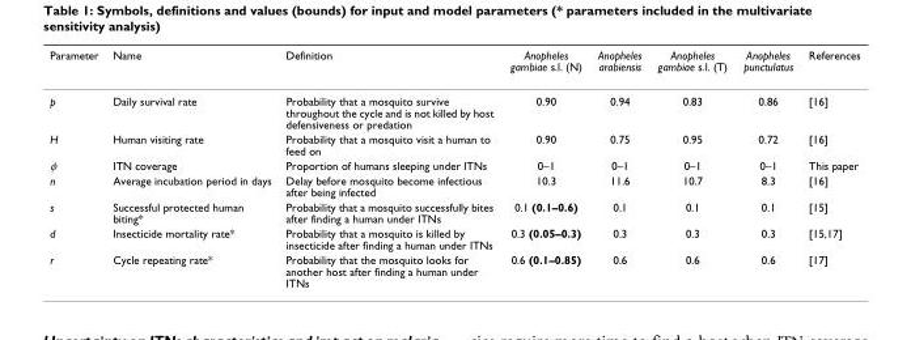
<table><thead><tr><td>Parameter</td><td>Name</td><td>Definition</td><td>Anopheles gambiae s.l. (N)</td><td>Anopheles arabiensis</td><td>Anopheles gambiae s.l. (T)</td><td>Anopheles punctulatus</td><td>References</td></tr></thead><tbody><tr><td>p</td><td>Daily survival rate</td><td>Probability that a mosquito survive throughout the cycle and is not killed by host defensiveness or predation</td><td>0.90</td><td>0.94</td><td>0.83</td><td>0.86</td><td>[16]</td></tr><tr><td>H</td><td>Human visiting rate</td><td>Probability that a mosquito visit a human to feed on</td><td>0.90</td><td>0.75</td><td>0.95</td><td>0.72</td><td>[16]</td></tr><tr><td>φ</td><td>ITN coverage</td><td>Proportion of humans sleeping under ITNs</td><td>0–1</td><td>0–1</td><td>0–1</td><td>0–1</td><td>This paper</td></tr><tr><td>n</td><td>Average incubation period in days</td><td>Delay before mosquito become infectious after being infected</td><td>10.3</td><td>11.6</td><td>10.7</td><td>8.3</td><td>[16]</td></tr><tr><td>s</td><td>Successful protected human biting*</td><td>Probability that a mosquito successfully bites after finding a human under ITNs</td><td>0.1 (0.1–0.6)</td><td>0.1</td><td>0.1</td><td>0.1</td><td>[15]</td></tr><tr><td>d</td><td>Insecticide mortality rate*</td><td>Probability that a mosquito is killed by insecticide after finding a human under ITNs</td><td>0.3 (0.05–0.3)</td><td>0.3</td><td>0.3</td><td>0.3</td><td>[15,17]</td></tr><tr><td>r</td><td>Cycle repeating rate*</td><td>Probability that the mosquito looks for another host after finding a human under ITNs</td><td>0.6 (0.1–0.85)</td><td>0.6</td><td>0.6</td><td>0.6</td><td>[17]</td></tr></tbody></table>